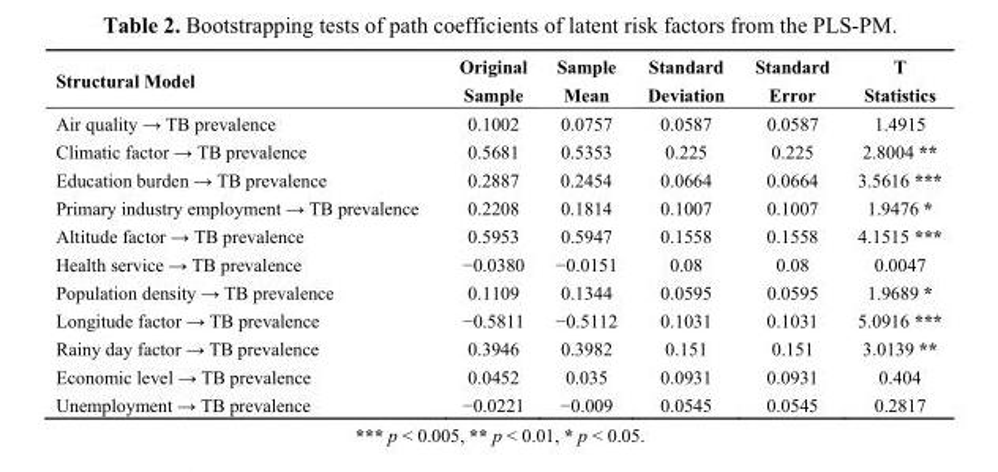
<table><thead><tr><td>Structural Model</td><td>Original Sample</td><td>Sample Mean</td><td>Standard Deviation</td><td>Standard Error</td><td>T Statistics</td></tr></thead><tbody><tr><td>Air quality → TB prevalence</td><td>0.1002</td><td>0.0757</td><td>0.0587</td><td>0.0587</td><td>1.4915</td></tr><tr><td>Climatic factor → TB prevalence</td><td>0.5681</td><td>0.5353</td><td>0.225</td><td>0.225</td><td>2.8004 **</td></tr><tr><td>Education burden → TB prevalence</td><td>0.2887</td><td>0.2454</td><td>0.0664</td><td>0.0664</td><td>3.5616 ***</td></tr><tr><td>Primary industry employment → TB prevalence</td><td>0.2208</td><td>0.1814</td><td>0.1007</td><td>0.1007</td><td>1.9476 *</td></tr><tr><td>Altitude factor → TB prevalence</td><td>0.5953</td><td>0.5947</td><td>0.1558</td><td>0.1558</td><td>4.1515 ***</td></tr><tr><td>Health service → TB prevalence</td><td>−0.0380</td><td>−0.0151</td><td>0.08</td><td>0.08</td><td>0.0047</td></tr><tr><td>Population density → TB prevalence</td><td>0.1109</td><td>0.1344</td><td>0.0595</td><td>0.0595</td><td>1.9689 *</td></tr><tr><td>Longitude factor → TB prevalence</td><td>−0.5811</td><td>−0.5112</td><td>0.1031</td><td>0.1031</td><td>5.0916 ***</td></tr><tr><td>Rainy day factor → TB prevalence</td><td>0.3946</td><td>0.3982</td><td>0.151</td><td>0.151</td><td>3.0139 **</td></tr><tr><td>Economic level → TB prevalence</td><td>0.0452</td><td>0.035</td><td>0.0931</td><td>0.0931</td><td>0.404</td></tr><tr><td>Unemployment → TB prevalence</td><td>−0.0221</td><td>−0.009</td><td>0.0545</td><td>0.0545</td><td>0.2817</td></tr></tbody></table>